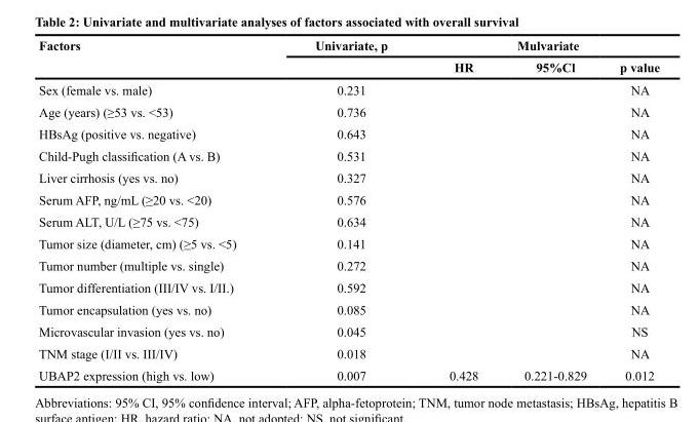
<table><thead><tr><td rowspan="2">Factors</td><td rowspan="2">Univariate, p</td><td colspan="3">Mulvariate</td></tr><tr><td>HR</td><td>95%Cl</td><td>p value</td></tr></thead><tbody><tr><td>Sex (female vs. male)</td><td>0.231</td><td></td><td></td><td>NA</td></tr><tr><td>Age (years) (≥53 vs. &lt;53)</td><td>0.736</td><td></td><td></td><td>NA</td></tr><tr><td>HBsAg (positive vs. negative)</td><td>0.643</td><td></td><td></td><td>NA</td></tr><tr><td>Child-Pugh classification (A vs. B)</td><td>0.531</td><td></td><td></td><td>NA</td></tr><tr><td>Liver cirrhosis (yes vs. no)</td><td>0.327</td><td></td><td></td><td>NA</td></tr><tr><td>Serum AFP, ng/mL (≥20 vs. &lt;20)</td><td>0.576</td><td></td><td></td><td>NA</td></tr><tr><td>Serum ALT, U/L (≥75 vs. &lt;75)</td><td>0.634</td><td></td><td></td><td>NA</td></tr><tr><td>Tumor size (diameter, cm) (≥5 vs. &lt;5)</td><td>0.141</td><td></td><td></td><td>NA</td></tr><tr><td>Tumor number (multiple vs. single)</td><td>0.272</td><td></td><td></td><td>NA</td></tr><tr><td>Tumor differentiation (III/IV vs. I/II.)</td><td>0.592</td><td></td><td></td><td>NA</td></tr><tr><td>Tumor encapsulation (yes vs. no)</td><td>0.085</td><td></td><td></td><td>NA</td></tr><tr><td>Microvascular invasion (yes vs. no)</td><td>0.045</td><td></td><td></td><td>NS</td></tr><tr><td>TNM stage (I/II vs. III/IV)</td><td>0.018</td><td></td><td></td><td>NA</td></tr><tr><td>UBAP2 expression (high vs. low)</td><td>0.007</td><td>0.428</td><td>0.221-0.829</td><td>0.012</td></tr></tbody></table>